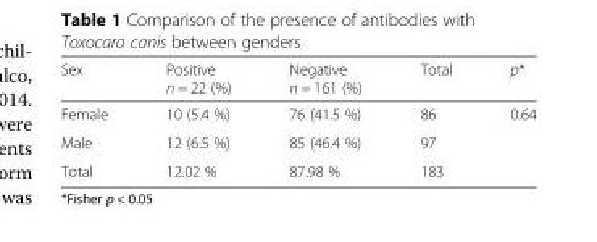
<table><thead><tr><td>Sex</td><td>Positive n = 22 (%)</td><td>Negative n = 161 (%)</td><td>Total</td><td>p*</td></tr></thead><tbody><tr><td>Female</td><td>10 (5.4 %)</td><td>76 (41.5 %)</td><td>86</td><td rowspan="3">0.64</td></tr><tr><td>Male</td><td>12 (6.5 %)</td><td>85 (46.4 %)</td><td>97</td></tr><tr><td>Total</td><td>12.02 %</td><td>87.98 %</td><td>183</td></tr></tbody></table>